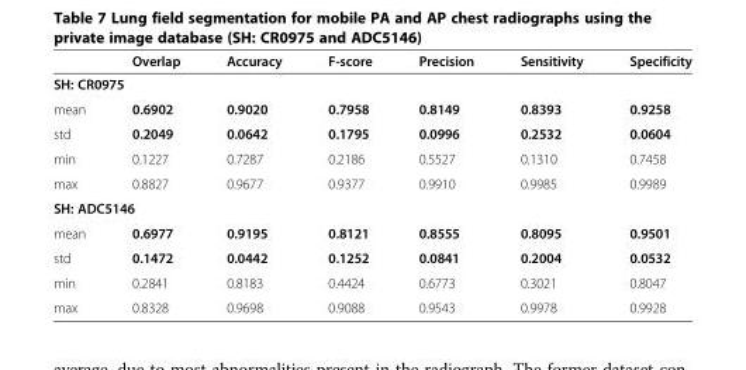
<table><thead><tr><td></td><td>Overlap</td><td>Accuracy</td><td>F-score</td><td>Precision</td><td>Sensitivity</td><td>Specificity</td></tr></thead><tbody><tr><td colspan="7">SH: CR0975</td></tr><tr><td>mean</td><td>0.6902</td><td>0.9020</td><td>0.7958</td><td>0.8149</td><td>0.8393</td><td>0.9258</td></tr><tr><td>std</td><td>0.2049</td><td>0.0642</td><td>0.1795</td><td>0.0996</td><td>0.2532</td><td>0.0604</td></tr><tr><td>min</td><td>0.1227</td><td>0.7287</td><td>0.2186</td><td>0.5527</td><td>0.1310</td><td>0.7458</td></tr><tr><td>max</td><td>0.8827</td><td>0.9677</td><td>0.9377</td><td>0.9910</td><td>0.9985</td><td>0.9989</td></tr><tr><td colspan="7">SH: ADC5146</td></tr><tr><td>mean</td><td>0.6977</td><td>0.9195</td><td>0.8121</td><td>0.8555</td><td>0.8095</td><td>0.9501</td></tr><tr><td>std</td><td>0.1472</td><td>0.0442</td><td>0.1252</td><td>0.0841</td><td>0.2004</td><td>0.0532</td></tr><tr><td>min</td><td>0.2841</td><td>0.8183</td><td>0.4424</td><td>0.6773</td><td>0.3021</td><td>0.8047</td></tr><tr><td>max</td><td>0.8328</td><td>0.9698</td><td>0.9088</td><td>0.9543</td><td>0.9978</td><td>0.9928</td></tr></tbody></table>